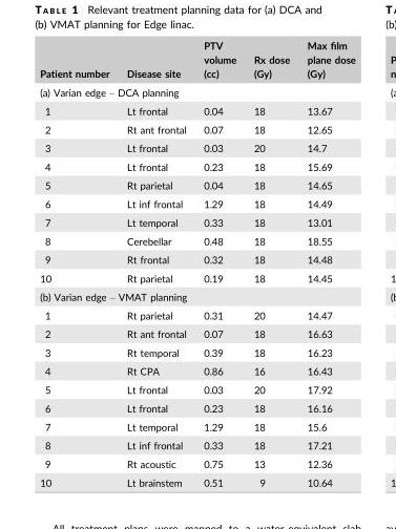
<table><thead><tr><td>Patient number</td><td>Disease site</td><td>PTV volume (cc)</td><td>Rx dose (Gy)</td><td>Max film plane dose (Gy)</td></tr></thead><tbody><tr><td colspan="5">(a) Varian edge – DCA planning</td></tr><tr><td>1</td><td>Lt frontal</td><td>0.04</td><td>18</td><td>13.67</td></tr><tr><td>2</td><td>Rt ant frontal</td><td>0.07</td><td>18</td><td>12.65</td></tr><tr><td>3</td><td>Lt frontal</td><td>0.03</td><td>20</td><td>14.7</td></tr><tr><td>4</td><td>Lt frontal</td><td>0.23</td><td>18</td><td>15.69</td></tr><tr><td>5</td><td>Rt parietal</td><td>0.04</td><td>18</td><td>14.65</td></tr><tr><td>6</td><td>Lt inf frontal</td><td>1.29</td><td>18</td><td>14.49</td></tr><tr><td>7</td><td>Lt temporal</td><td>0.33</td><td>18</td><td>13.01</td></tr><tr><td>8</td><td>Cerebellar</td><td>0.48</td><td>18</td><td>18.55</td></tr><tr><td>9</td><td>Rt frontal</td><td>0.32</td><td>18</td><td>14.48</td></tr><tr><td>10</td><td>Rt parietal</td><td>0.19</td><td>18</td><td>14.45</td></tr><tr><td colspan="5">(b) Varian edge – VMAT planning</td></tr><tr><td>1</td><td>Rt parietal</td><td>0.31</td><td>20</td><td>14.47</td></tr><tr><td>2</td><td>Rt ant frontal</td><td>0.07</td><td>18</td><td>16.63</td></tr><tr><td>3</td><td>Rt temporal</td><td>0.39</td><td>18</td><td>16.23</td></tr><tr><td>4</td><td>Rt CPA</td><td>0.86</td><td>16</td><td>16.43</td></tr><tr><td>5</td><td>Lt frontal</td><td>0.03</td><td>20</td><td>17.92</td></tr><tr><td>6</td><td>Lt frontal</td><td>0.23</td><td>18</td><td>16.16</td></tr><tr><td>7</td><td>Lt temporal</td><td>1.29</td><td>18</td><td>15.6</td></tr><tr><td>8</td><td>Lt inf frontal</td><td>0.33</td><td>18</td><td>17.21</td></tr><tr><td>9</td><td>Rt acoustic</td><td>0.75</td><td>13</td><td>12.36</td></tr><tr><td>10</td><td>Lt brainstem</td><td>0.51</td><td>9</td><td>10.64</td></tr></tbody></table>